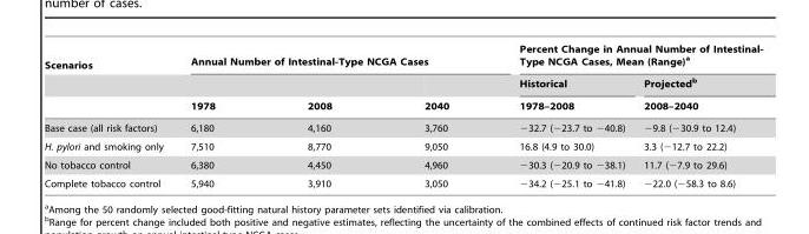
<table><thead><tr><td rowspan="3">Scenarios</td><td colspan="3">Annual Number of Intestinal-Type NCGA Cases</td><td colspan="2">Percent Change in Annual Number of Intestinal- Type NCGA Cases, Mean (Range)<sup>a</sup></td></tr><tr><td rowspan="2">1978</td><td rowspan="2">2008</td><td rowspan="2">2040</td><td rowspan="2">Historical 1978–2008</td><td rowspan="2">Projected<sup>b</sup> 2008–2040</td></tr><tr></tr></thead><tbody><tr><td>Base case (all risk factors)</td><td>6,180</td><td>4,160</td><td>3,760</td><td>−32.7 (−23.7 to −40.8)</td><td>−9.8 (−30.9 to 12.4)</td></tr><tr><td>H. pylori and smoking only</td><td>7,510</td><td>8,770</td><td>9,050</td><td>16.8 (4.9 to 30.0)</td><td>3.3 (−12.7 to 22.2)</td></tr><tr><td>No tobacco control</td><td>6,380</td><td>4,450</td><td>4,960</td><td>−30.3 (−20.9 to −38.1)</td><td>11.7 (−7.9 to 29.6)</td></tr><tr><td>Complete tobacco control</td><td>5,940</td><td>3,910</td><td>3,050</td><td>−34.2 (−25.1 to −41.8)</td><td>−22.0 (−58.3 to 8.6)</td></tr></tbody></table>